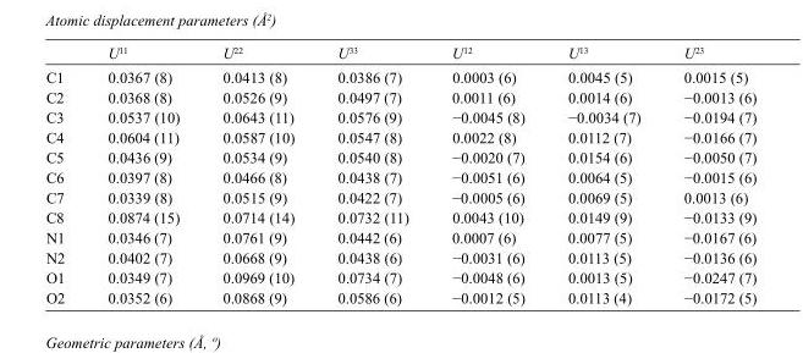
<table><thead><tr><td></td><td>U<sup>11</sup></td><td>U<sup>22</sup></td><td>U<sup>33</sup></td><td>U<sup>12</sup></td><td>U<sup>13</sup></td><td>U<sup>23</sup></td></tr></thead><tbody><tr><td>C1</td><td>0.0367 (8)</td><td>0.0413 (8)</td><td>0.0386 (7)</td><td>0.0003 (6)</td><td>0.0045 (5)</td><td>0.0015 (5)</td></tr><tr><td>C2</td><td>0.0368 (8)</td><td>0.0526 (9)</td><td>0.0497 (7)</td><td>0.0011 (6)</td><td>0.0014 (6)</td><td>−0.0013 (6)</td></tr><tr><td>C3</td><td>0.0537 (10)</td><td>0.0643 (11)</td><td>0.0576 (9)</td><td>−0.0045 (8)</td><td>−0.0034 (7)</td><td>−0.0194 (7)</td></tr><tr><td>C4</td><td>0.0604 (11)</td><td>0.0587 (10)</td><td>0.0547 (8)</td><td>0.0022 (8)</td><td>0.0112 (7)</td><td>−0.0166 (7)</td></tr><tr><td>C5</td><td>0.0436 (9)</td><td>0.0534 (9)</td><td>0.0540 (8)</td><td>−0.0020 (7)</td><td>0.0154 (6)</td><td>−0.0050 (7)</td></tr><tr><td>C6</td><td>0.0397 (8)</td><td>0.0466 (8)</td><td>0.0438 (7)</td><td>−0.0051 (6)</td><td>0.0064 (5)</td><td>−0.0015 (6)</td></tr><tr><td>C7</td><td>0.0339 (8)</td><td>0.0515 (9)</td><td>0.0422 (7)</td><td>−0.0005 (6)</td><td>0.0069 (5)</td><td>0.0013 (6)</td></tr><tr><td>C8</td><td>0.0874 (15)</td><td>0.0714 (14)</td><td>0.0732 (11)</td><td>0.0043 (10)</td><td>0.0149 (9)</td><td>−0.0133 (9)</td></tr><tr><td>N1</td><td>0.0346 (7)</td><td>0.0761 (9)</td><td>0.0442 (6)</td><td>0.0007 (6)</td><td>0.0077 (5)</td><td>−0.0167 (6)</td></tr><tr><td>N2</td><td>0.0402 (7)</td><td>0.0668 (9)</td><td>0.0438 (6)</td><td>−0.0031 (6)</td><td>0.0113 (5)</td><td>−0.0136 (6)</td></tr><tr><td>O1</td><td>0.0349 (7)</td><td>0.0969 (10)</td><td>0.0734 (7)</td><td>−0.0048 (6)</td><td>0.0013 (5)</td><td>−0.0247 (7)</td></tr><tr><td>O2</td><td>0.0352 (6)</td><td>0.0868 (9)</td><td>0.0586 (6)</td><td>−0.0012 (5)</td><td>0.0113 (4)</td><td>−0.0172 (5)</td></tr></tbody></table>